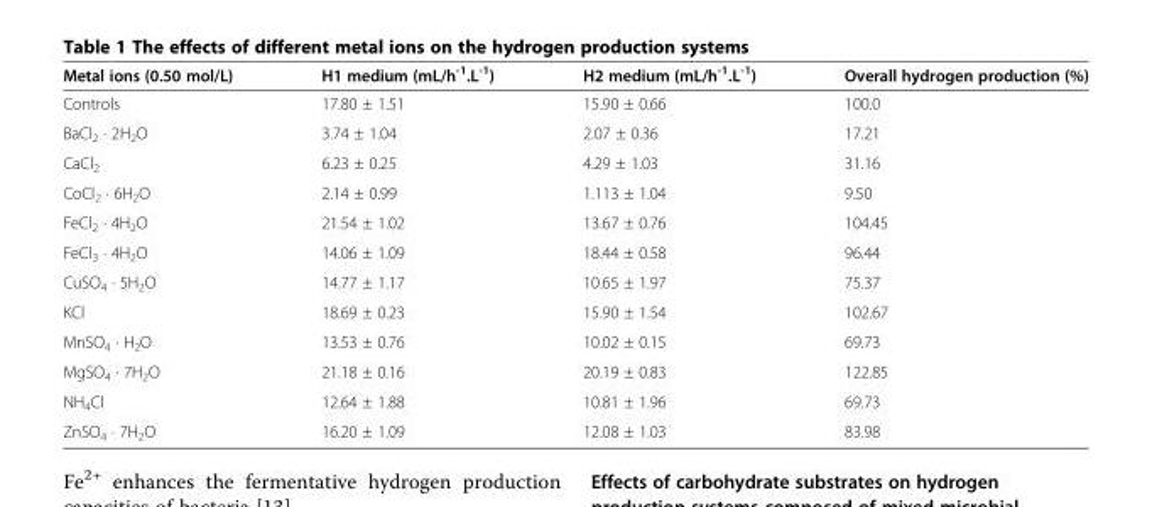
<table><thead><tr><td>Metal ions (0.50 mol/L)</td><td>H1 medium (mL/h<sup>-1</sup>.L<sup>-1</sup>)</td><td>H2 medium (mL/h<sup>-1</sup>.L<sup>-1</sup>)</td><td>Overall hydrogen production (%)</td></tr></thead><tbody><tr><td>Controls</td><td>17.80 ± 1.51</td><td>15.90 ± 0.66</td><td>100.0</td></tr><tr><td>BaCl<sub>2</sub> · 2H<sub>2</sub>O</td><td>3.74 ± 1.04</td><td>2.07 ± 0.36</td><td>17.21</td></tr><tr><td>CaCl<sub>2</sub></td><td>6.23 ± 0.25</td><td>4.29 ± 1.03</td><td>31.16</td></tr><tr><td>CoCl<sub>2</sub> · 6H<sub>2</sub>O</td><td>2.14 ± 0.99</td><td>1.113 ± 1.04</td><td>9.50</td></tr><tr><td>FeCl<sub>2</sub> · 4H<sub>2</sub>O</td><td>21.54 ± 1.02</td><td>13.67 ± 0.76</td><td>104.45</td></tr><tr><td>FeCl<sub>3</sub> · 4H<sub>2</sub>O</td><td>14.06 ± 1.09</td><td>18.44 ± 0.58</td><td>96.44</td></tr><tr><td>CuSO<sub>4</sub> · 5H<sub>2</sub>O</td><td>14.77 ± 1.17</td><td>10.65 ± 1.97</td><td>75.37</td></tr><tr><td>KCl</td><td>18.69 ± 0.23</td><td>15.90 ± 1.54</td><td>102.67</td></tr><tr><td>MnSO<sub>4</sub> · H<sub>2</sub>O</td><td>13.53 ± 0.76</td><td>10.02 ± 0.15</td><td>69.73</td></tr><tr><td>MgSO<sub>4</sub> · 7H<sub>2</sub>O</td><td>21.18 ± 0.16</td><td>20.19 ± 0.83</td><td>122.85</td></tr><tr><td>NH<sub>4</sub>Cl</td><td>12.64 ± 1.88</td><td>10.81 ± 1.96</td><td>69.73</td></tr><tr><td>ZnSO<sub>4</sub> · 7H<sub>2</sub>O</td><td>16.20 ± 1.09</td><td>12.08 ± 1.03</td><td>83.98</td></tr></tbody></table>